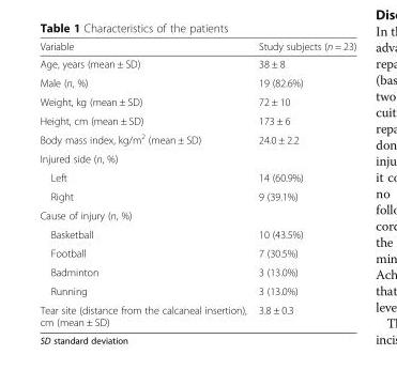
<table><thead><tr><td>Variable</td><td>Study subjects (n = 23)</td></tr></thead><tbody><tr><td>Age, years (mean ± SD)</td><td>38 ± 8</td></tr><tr><td>Male (n, %)</td><td>19 (82.6%)</td></tr><tr><td>Weight, kg (mean ± SD)</td><td>72 ± 10</td></tr><tr><td>Height, cm (mean ± SD)</td><td>173 ± 6</td></tr><tr><td>Body mass index, kg/m<sup>2</sup> (mean ± SD)</td><td>24.0 ± 2.2</td></tr><tr><td colspan="2">Injured side (n, %)</td></tr><tr><td>Left</td><td>14 (60.9%)</td></tr><tr><td>Right</td><td>9 (39.1%)</td></tr><tr><td colspan="2">Cause of injury (n, %)</td></tr><tr><td>Basketball</td><td>10 (43.5%)</td></tr><tr><td>Football</td><td>7 (30.5%)</td></tr><tr><td>Badminton</td><td>3 (13.0%)</td></tr><tr><td>Running</td><td>3 (13.0%)</td></tr><tr><td>Tear site (distance from the calcaneal insertion), cm (mean ± SD)</td><td>3.8 ± 0.3</td></tr></tbody></table>